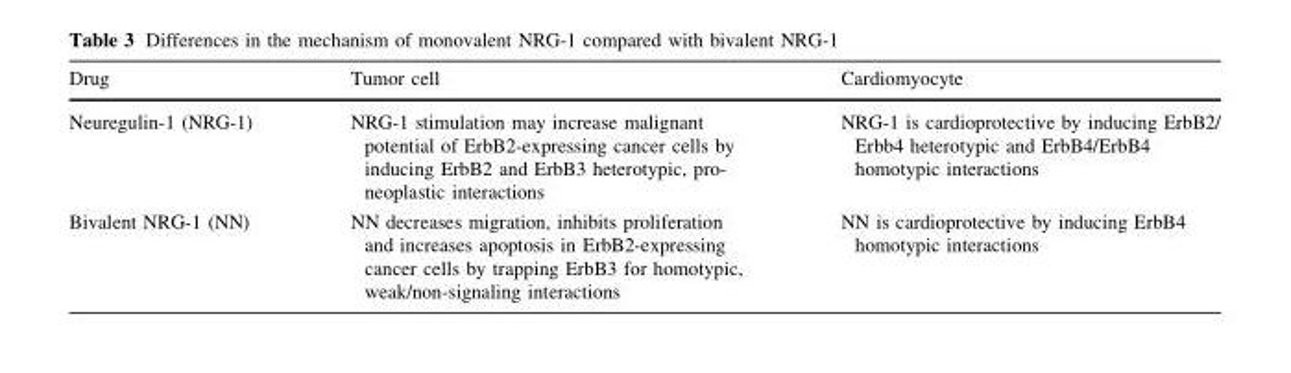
<table><thead><tr><td>Drug</td><td>Tumor cell</td><td>Cardiomyocyte</td></tr></thead><tbody><tr><td>Neuregulin-1 (NRG-1)</td><td>NRG-1 stimulation may increase malignant potential of ErbB2-expressing cancer cells by inducing ErbB2 and ErbB3 heterotypic, pro- neoplastic interactions</td><td>NRG-1 is cardioprotective by inducing ErbB2/ Erbb4 heterotypic and ErbB4/ErbB4 homotypic interactions</td></tr><tr><td>Bivalent NRG-1 (NN)</td><td>NN decreases migration, inhibits proliferation and increases apoptosis in ErbB2-expressing cancer cells by trapping ErbB3 for homotypic, weak/non-signaling interactions</td><td>NN is cardioprotective by inducing ErbB4 homotypic interactions</td></tr></tbody></table>